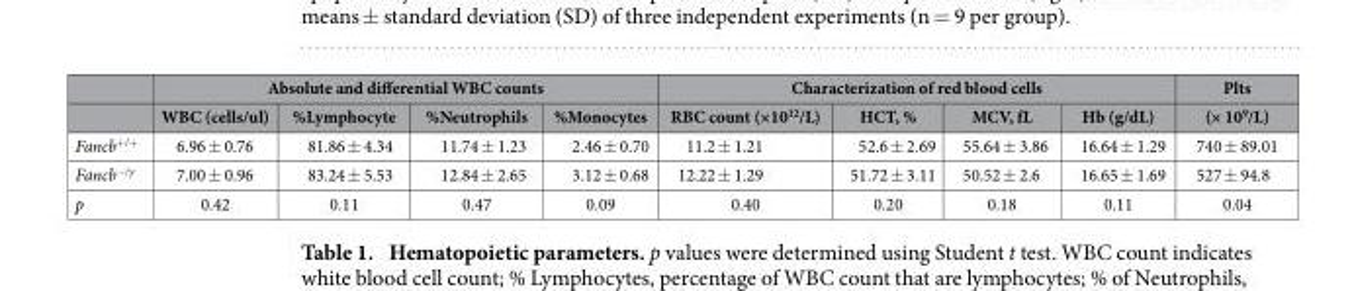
<table><thead><tr><td rowspan="2"></td><td colspan="4">Absolute and differential WBC counts</td><td colspan="4">Characterization of red blood cells</td><td rowspan="2">Plts (× 109/L)</td></tr><tr><td>WBC (cells/ul)</td><td>%Lymphocyte</td><td>%Neutrophils</td><td>%Monocytes</td><td>RBC count (×1012/L)</td><td>HCT, %</td><td>MCV, fL</td><td>Hb (g/dL)</td></tr></thead><tbody><tr><td>Fancb<sup>+/+</sup></td><td>6.96 ± 0.76</td><td>81.86 ± 4.34</td><td>11.74 ± 1.23</td><td>2.46 ± 0.70</td><td>11.2 ± 1.21</td><td>52.6 ± 2.69</td><td>55.64 ± 3.86</td><td>16.64 ± 1.29</td><td>740 ± 89.01</td></tr><tr><td>Fancb<sup>−/y</sup></td><td>7.00 ± 0.96</td><td>83.24 ± 5.53</td><td>12.84 ± 2.65</td><td>3.12 ± 0.68</td><td>12.22 ± 1.29</td><td>51.72 ± 3.11</td><td>50.52 ± 2.6</td><td>16.65 ± 1.69</td><td>527 ± 94.8</td></tr><tr><td>p</td><td>0.42</td><td>0.11</td><td>0.47</td><td>0.09</td><td>0.40</td><td>0.20</td><td>0.18</td><td>0.11</td><td>0.04</td></tr></tbody></table>